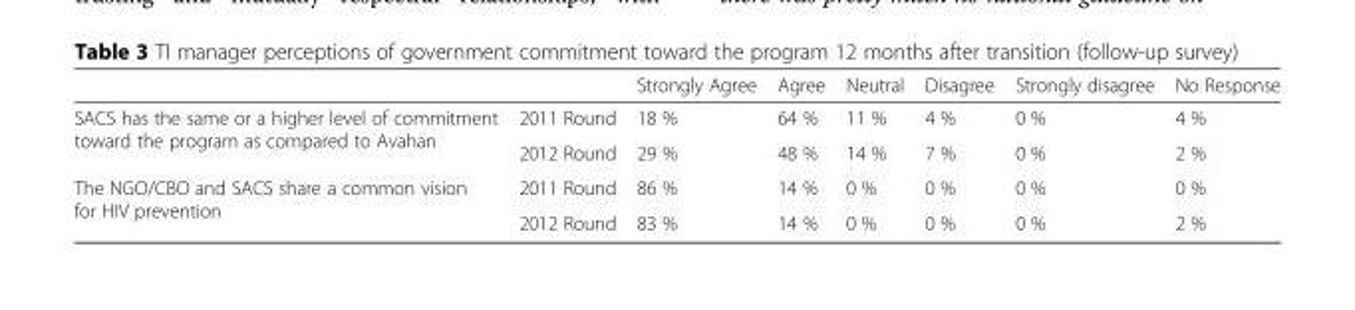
<table><thead><tr><td></td><td></td><td>Strongly Agree</td><td>Agree</td><td>Neutral</td><td>Disagree</td><td>Strongly disagree</td><td>No Response</td></tr></thead><tbody><tr><td rowspan="2">SACS has the same or a higher level of commitment toward the program as compared to Avahan</td><td>2011 Round</td><td>18 %</td><td>64 %</td><td>11 %</td><td>4 %</td><td>0 %</td><td>4 %</td></tr><tr><td>2012 Round</td><td>29 %</td><td>48 %</td><td>14 %</td><td>7 %</td><td>0 %</td><td>2 %</td></tr><tr><td rowspan="2">The NGO/CBO and SACS share a common vision for HIV prevention</td><td>2011 Round</td><td>86 %</td><td>14 %</td><td>0 %</td><td>0 %</td><td>0 %</td><td>0 %</td></tr><tr><td>2012 Round</td><td>83 %</td><td>14 %</td><td>0 %</td><td>0 %</td><td>0 %</td><td>2 %</td></tr></tbody></table>